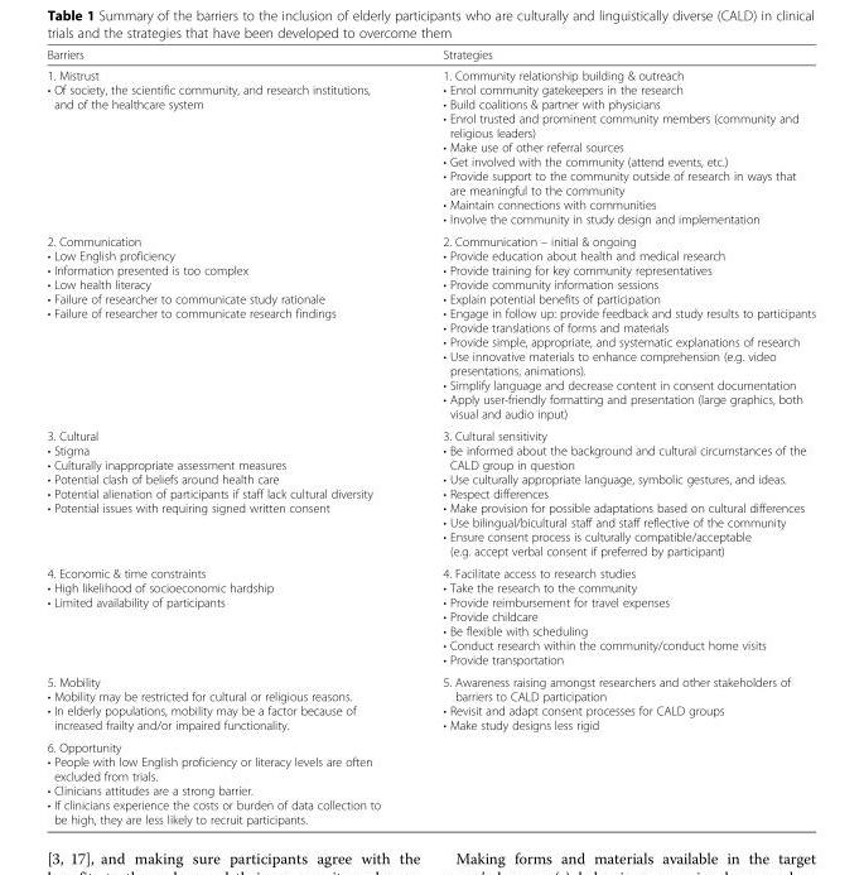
<table><thead><tr><td>Barriers</td><td>Strategies</td></tr></thead><tbody><tr><td>1. Mistrust • Of society, the scientific community, and research institutions, and of the healthcare system</td><td>1. Community relationship building &amp; outreach • Enrol community gatekeepers in the research • Build coalitions &amp; partner with physicians • Enrol trusted and prominent community members (community and religious leaders) • Make use of other referral sources • Get involved with the community (attend events, etc.) • Provide support to the community outside of research in ways that are meaningful to the community • Maintain connections with communities • Involve the community in study design and implementation</td></tr><tr><td>2. Communication • Low English proficiency • Information presented is too complex • Low health literacy • Failure of researcher to communicate study rationale • Failure of researcher to communicate research findings</td><td>2. Communication – initial &amp; ongoing • Provide education about health and medical research • Provide training for key community representatives • Provide community information sessions • Explain potential benefits of participation • Engage in follow up: provide feedback and study results to participants • Provide translations of forms and materials • Provide simple, appropriate, and systematic explanations of research • Use innovative materials to enhance comprehension (e.g. video presentations, animations). • Simplify language and decrease content in consent documentation • Apply user-friendly formatting and presentation (large graphics, both visual and audio input)</td></tr><tr><td>3. Cultural • Stigma • Culturally inappropriate assessment measures • Potential clash of beliefs around health care • Potential alienation of participants if staff lack cultural diversity • Potential issues with requiring signed written consent</td><td>3. Cultural sensitivity • Be informed about the background and cultural circumstances of the CALD group in question • Use culturally appropriate language, symbolic gestures, and ideas. • Respect differences • Make provision for possible adaptations based on cultural differences • Use bilingual/bicultural staff and staff reflective of the community • Ensure consent process is culturally compatible/acceptable (e.g. accept verbal consent if preferred by participant)</td></tr><tr><td>4. Economic &amp; time constraints • High likelihood of socioeconomic hardship • Limited availability of participants</td><td>4. Facilitate access to research studies • Take the research to the community • Provide reimbursement for travel expenses • Provide childcare • Be flexible with scheduling • Conduct research within the community/conduct home visits • Provide transportation</td></tr><tr><td>5. Mobility • Mobility may be restricted for cultural or religious reasons. • In elderly populations, mobility may be a factor because of increased frailty and/or impaired functionality.</td><td>5. Awareness raising amongst researchers and other stakeholders of barriers to CALD participation • Revisit and adapt consent processes for CALD groups • Make study designs less rigid</td></tr><tr><td>6. Opportunity • People with low English proficiency or literacy levels are often excluded from trials. • Clinicians attitudes are a strong barrier. • If clinicians experience the costs or burden of data collection to be high, they are less likely to recruit participants.</td><td></td></tr></tbody></table>